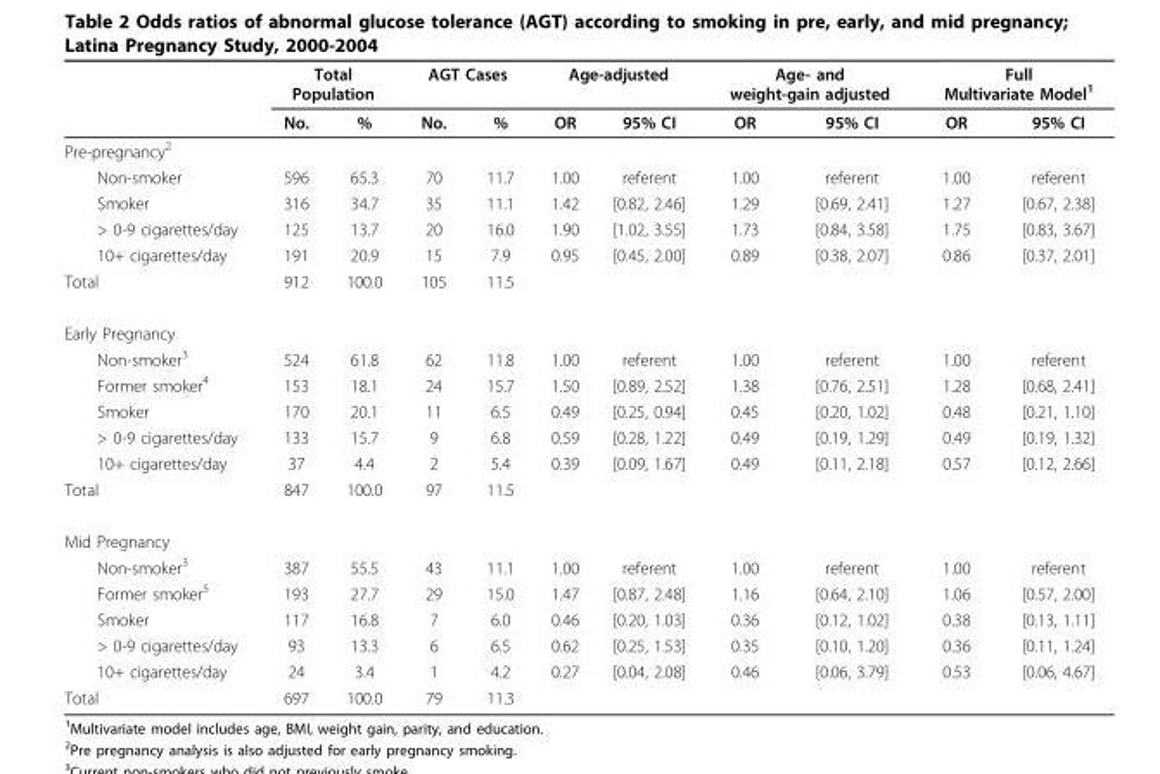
<table><thead><tr><td rowspan="2"></td><td colspan="2">Total Population</td><td colspan="2">AGT Cases</td><td colspan="2">Age-adjusted</td><td colspan="2">Age- and weight-gain adjusted</td><td colspan="2">Full Multivariate Model<sup>1</sup></td></tr><tr><td>No.</td><td>%</td><td>No.</td><td>%</td><td>OR</td><td>95% CI</td><td>OR</td><td>95% CI</td><td>OR</td><td>95% CI</td></tr></thead><tbody><tr><td colspan="11">Pre-pregnancy<sup>2</sup></td></tr><tr><td>Non-smoker</td><td>596</td><td>65.3</td><td>70</td><td>11.7</td><td>1.00</td><td>referent</td><td>1.00</td><td>referent</td><td>1.00</td><td>referent</td></tr><tr><td>Smoker</td><td>316</td><td>34.7</td><td>35</td><td>11.1</td><td>1.42</td><td>[0.82, 2.46]</td><td>1.29</td><td>[0.69, 2.41]</td><td>1.27</td><td>[0.67, 2.38]</td></tr><tr><td>&gt; 0-9 cigarettes/day</td><td>125</td><td>13.7</td><td>20</td><td>16.0</td><td>1.90</td><td>[1.02, 3.55]</td><td>1.73</td><td>[0.84, 3.58]</td><td>1.75</td><td>[0.83, 3.67]</td></tr><tr><td>10+ cigarettes/day</td><td>191</td><td>20.9</td><td>15</td><td>7.9</td><td>0.95</td><td>[0.45, 2.00]</td><td>0.89</td><td>[0.38, 2.07]</td><td>0.86</td><td>[0.37, 2.01]</td></tr><tr><td>Total</td><td>912</td><td>100.0</td><td>105</td><td>11.5</td><td></td><td></td><td></td><td></td><td></td><td></td></tr><tr><td colspan="11">Early Pregnancy</td></tr><tr><td>Non-smoker<sup>3</sup></td><td>524</td><td>61.8</td><td>62</td><td>11.8</td><td>1.00</td><td>referent</td><td>1.00</td><td>referent</td><td>1.00</td><td>referent</td></tr><tr><td>Former smoker<sup>4</sup></td><td>153</td><td>18.1</td><td>24</td><td>15.7</td><td>1.50</td><td>[0.89, 2.52]</td><td>1.38</td><td>[0.76, 2.51]</td><td>1.28</td><td>[0.68, 2.41]</td></tr><tr><td>Smoker</td><td>170</td><td>20.1</td><td>11</td><td>6.5</td><td>0.49</td><td>[0.25, 0.94]</td><td>0.45</td><td>[0.20, 1.02]</td><td>0.48</td><td>[0.21, 1.10]</td></tr><tr><td>&gt; 0-9 cigarettes/day</td><td>133</td><td>15.7</td><td>9</td><td>6.8</td><td>0.59</td><td>[0.28, 1.22]</td><td>0.49</td><td>[0.19, 1.29]</td><td>0.49</td><td>[0.19, 1.32]</td></tr><tr><td>10+ cigarettes/day</td><td>37</td><td>4.4</td><td>2</td><td>5.4</td><td>0.39</td><td>[0.09, 1.67]</td><td>0.49</td><td>[0.11, 2.18]</td><td>0.57</td><td>[0.12, 2.66]</td></tr><tr><td>Total</td><td>847</td><td>100.0</td><td>97</td><td>11.5</td><td></td><td></td><td></td><td></td><td></td><td></td></tr><tr><td colspan="11">Mid Pregnancy</td></tr><tr><td>Non-smoker<sup>3</sup></td><td>387</td><td>55.5</td><td>43</td><td>11.1</td><td>1.00</td><td>referent</td><td>1.00</td><td>referent</td><td>1.00</td><td>referent</td></tr><tr><td>Former smoker<sup>5</sup></td><td>193</td><td>27.7</td><td>29</td><td>15.0</td><td>1.47</td><td>[0.87, 2.48]</td><td>1.16</td><td>[0.64, 2.10]</td><td>1.06</td><td>[0.57, 2.00]</td></tr><tr><td>Smoker</td><td>117</td><td>16.8</td><td>7</td><td>6.0</td><td>0.46</td><td>[0.20, 1.03]</td><td>0.36</td><td>[0.12, 1.02]</td><td>0.38</td><td>[0.13, 1.11]</td></tr><tr><td>&gt; 0-9 cigarettes/day</td><td>93</td><td>13.3</td><td>6</td><td>6.5</td><td>0.62</td><td>[0.25, 1.53]</td><td>0.35</td><td>[0.10, 1.20]</td><td>0.36</td><td>[0.11, 1.24]</td></tr><tr><td>10+ cigarettes/day</td><td>24</td><td>3.4</td><td>1</td><td>4.2</td><td>0.27</td><td>[0.04, 2.08]</td><td>0.46</td><td>[0.06, 3.79]</td><td>0.53</td><td>[0.06, 4.67]</td></tr><tr><td>Total</td><td>697</td><td>100.0</td><td>79</td><td>11.3</td><td></td><td></td><td></td><td></td><td></td><td></td></tr></tbody></table>